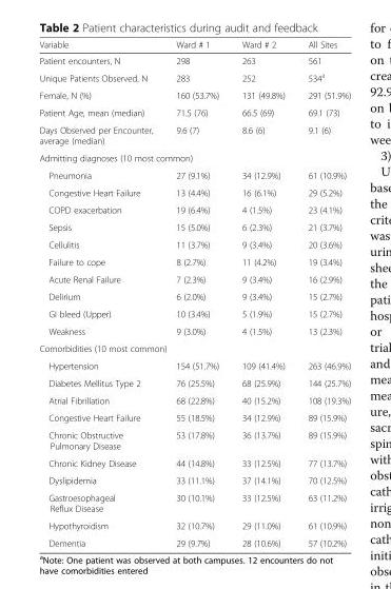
<table><thead><tr><td>Variable</td><td>Ward # 1</td><td>Ward # 2</td><td>All Sites</td></tr></thead><tbody><tr><td>Patient encounters, N</td><td>298</td><td>263</td><td>561</td></tr><tr><td>Unique Patients Observed, N</td><td>283</td><td>252</td><td>534<sup>a</sup></td></tr><tr><td>Female, N (%)</td><td>160 (53.7%)</td><td>131 (49.8%)</td><td>291 (51.9%)</td></tr><tr><td>Patient Age, mean (median)</td><td>71.5 (76)</td><td>66.5 (69)</td><td>69.1 (73)</td></tr><tr><td>Days Observed per Encounter, average (median)</td><td>9.6 (7)</td><td>8.6 (6)</td><td>9.1 (6)</td></tr><tr><td colspan="4">Admitting diagnoses (10 most common)</td></tr><tr><td>Pneumonia</td><td>27 (9.1%)</td><td>34 (12.9%)</td><td>61 (10.9%)</td></tr><tr><td>Congestive Heart Failure</td><td>13 (4.4%)</td><td>16 (6.1%)</td><td>29 (5.2%)</td></tr><tr><td>COPD exacerbation</td><td>19 (6.4%)</td><td>4 (1.5%)</td><td>23 (4.1%)</td></tr><tr><td>Sepsis</td><td>15 (5.0%)</td><td>6 (2.3%)</td><td>21 (3.7%)</td></tr><tr><td>Cellulitis</td><td>11 (3.7%)</td><td>9 (3.4%)</td><td>20 (3.6%)</td></tr><tr><td>Failure to cope</td><td>8 (2.7%)</td><td>11 (4.2%)</td><td>19 (3.4%)</td></tr><tr><td>Acute Renal Failure</td><td>7 (2.3%)</td><td>9 (3.4%)</td><td>16 (2.9%)</td></tr><tr><td>Delirium</td><td>6 (2.0%)</td><td>9 (3.4%)</td><td>15 (2.7%)</td></tr><tr><td>GI bleed (Upper)</td><td>10 (3.4%)</td><td>5 (1.9%)</td><td>15 (2.7%)</td></tr><tr><td>Weakness</td><td>9 (3.0%)</td><td>4 (1.5%)</td><td>13 (2.3%)</td></tr><tr><td colspan="4">Comorbidities (10 most common)</td></tr><tr><td>Hypertension</td><td>154 (51.7%)</td><td>109 (41.4%)</td><td>263 (46.9%)</td></tr><tr><td>Diabetes Mellitus Type 2</td><td>76 (25.5%)</td><td>68 (25.9%)</td><td>144 (25.7%)</td></tr><tr><td>Atrial Fibrillation</td><td>68 (22.8%)</td><td>40 (15.2%)</td><td>108 (19.3%)</td></tr><tr><td>Congestive Heart Failure</td><td>55 (18.5%)</td><td>34 (12.9%)</td><td>89 (15.9%)</td></tr><tr><td>Chronic Obstructive Pulmonary Disease</td><td>53 (17.8%)</td><td>36 (13.7%)</td><td>89 (15.9%)</td></tr><tr><td>Chronic Kidney Disease</td><td>44 (14.8%)</td><td>33 (12.5%)</td><td>77 (13.7%)</td></tr><tr><td>Dyslipidemia</td><td>33 (11.1%)</td><td>37 (14.1%)</td><td>70 (12.5%)</td></tr><tr><td>Gastroesophageal Reflux Disease</td><td>30 (10.1%)</td><td>33 (12.5%)</td><td>63 (11.2%)</td></tr><tr><td>Hypothyroidism</td><td>32 (10.7%)</td><td>29 (11.0%)</td><td>61 (10.9%)</td></tr><tr><td>Dementia</td><td>29 (9.7%)</td><td>28 (10.6%)</td><td>57 (10.2%)</td></tr></tbody></table>